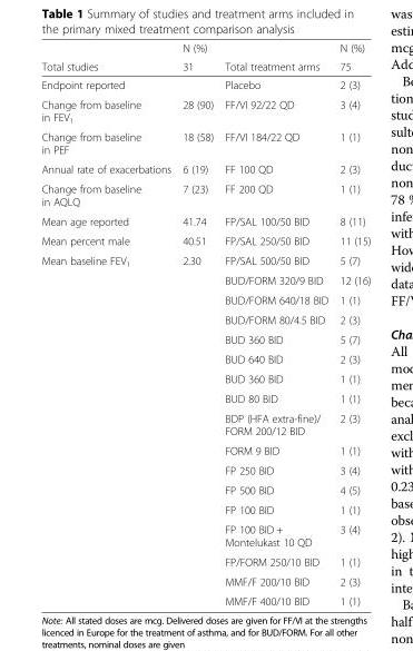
<table><thead><tr><td rowspan="2">Total studies</td><td rowspan="2">N (%) 31</td><td rowspan="2">Total treatment arms</td><td rowspan="2">N (%) 75</td></tr><tr></tr></thead><tbody><tr><td>Endpoint reported</td><td></td><td>Placebo</td><td>2 (3)</td></tr><tr><td>Change from baseline in FEV<sub>1</sub></td><td>28 (90)</td><td>FF/VI 92/22 QD</td><td>3 (4)</td></tr><tr><td>Change from baseline in PEF</td><td>18 (58)</td><td>FF/VI 184/22 QD</td><td>1 (1)</td></tr><tr><td>Annual rate of exacerbations</td><td>6 (19)</td><td>FF 100 QD</td><td>2 (3)</td></tr><tr><td>Change from baseline in AQLQ</td><td>7 (23)</td><td>FF 200 QD</td><td>1 (1)</td></tr><tr><td>Mean age reported</td><td>41.74</td><td>FP/SAL 100/50 BID</td><td>8 (11)</td></tr><tr><td>Mean percent male</td><td>40.51</td><td>FP/SAL 250/50 BID</td><td>11 (15)</td></tr><tr><td rowspan="17">Mean baseline FEV<sub>1</sub></td><td>2.30</td><td>FP/SAL 500/50 BID</td><td>5 (7)</td></tr><tr><td></td><td>BUD/FORM 320/9 BID</td><td>12 (16)</td></tr><tr><td></td><td>BUD/FORM 640/18 BID</td><td>1 (1)</td></tr><tr><td></td><td>BUD/FORM 80/4.5 BID</td><td>2 (3)</td></tr><tr><td></td><td>BUD 360 BID</td><td>5 (7)</td></tr><tr><td></td><td>BUD 640 BID</td><td>2 (3)</td></tr><tr><td></td><td>BUD 360 BID</td><td>1 (1)</td></tr><tr><td></td><td>BUD 80 BID</td><td>1 (1)</td></tr><tr><td></td><td>BDP (HFA extra-fine)/ FORM 200/12 BID</td><td>2 (3)</td></tr><tr><td></td><td>FORM 9 BID</td><td>1 (1)</td></tr><tr><td></td><td>FP 250 BID</td><td>3 (4)</td></tr><tr><td></td><td>FP 500 BID</td><td>4 (5)</td></tr><tr><td></td><td>FP 100 BID</td><td>1 (1)</td></tr><tr><td></td><td>FP 100 BID + Montelukast 10 QD</td><td>3 (4)</td></tr><tr><td></td><td>FP/FORM 250/10 BID</td><td>1 (1)</td></tr><tr><td></td><td>MMF/F 200/10 BID</td><td>2 (3)</td></tr><tr><td></td><td>MMF/F 400/10 BID</td><td>1 (1)</td></tr></tbody></table>